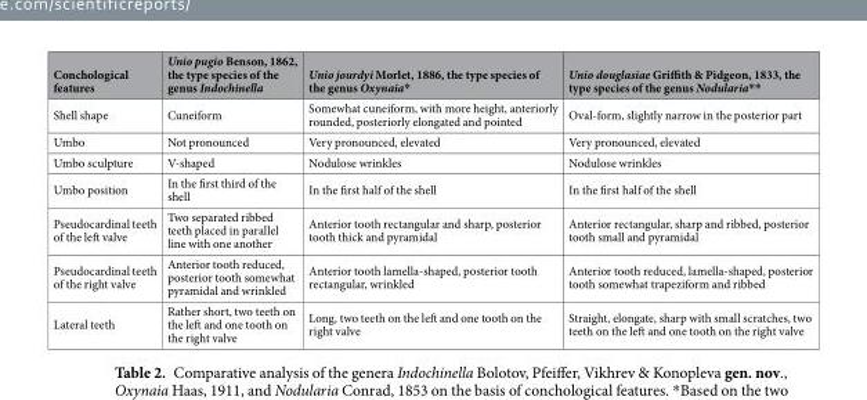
<table><thead><tr><td>Conchological features</td><td>Unio pugio Benson, 1862, the type species of the genus Indochinella</td><td>Unio jourdyi Morlet, 1886, the type species of the genus Oxynaia*</td><td>Unio douglasiae Griffith &amp; Pidgeon, 1833, the type species of the genus Nodularia**</td></tr></thead><tbody><tr><td>Shell shape</td><td>Cuneiform</td><td>Somewhat cuneiform, with more height, anteriorly rounded, posteriorly elongated and pointed</td><td>Oval-form, slightly narrow in the posterior part</td></tr><tr><td>Umbo</td><td>Not pronounced</td><td>Very pronounced, elevated</td><td>Very pronounced, elevated</td></tr><tr><td>Umbo sculpture</td><td>V-shaped</td><td>Nodulose wrinkles</td><td>Nodulose wrinkles</td></tr><tr><td>Umbo position</td><td>In the first third of the shell</td><td>In the first half of the shell</td><td>In the first half of the shell</td></tr><tr><td>Pseudocardinal teeth of the left valve</td><td>Two separated ribbed teeth placed in parallel line with one another</td><td>Anterior tooth rectangular and sharp, posterior tooth thick and pyramidal</td><td>Anterior rectangular, sharp and ribbed, posterior tooth small and pyramidal</td></tr><tr><td>Pseudocardinal teeth of the right valve</td><td>Anterior tooth reduced, posterior tooth somewhat pyramidal and wrinkled</td><td>Anterior tooth lamella-shaped, posterior tooth rectangular, wrinkled</td><td>Anterior tooth reduced, lamella-shaped, posterior tooth somewhat trapeziform and ribbed</td></tr><tr><td>Lateral teeth</td><td>Rather short, two teeth on the left and one tooth on the right valve</td><td>Long, two teeth on the left and one tooth on the right valve</td><td>Straight, elongate, sharp with small scratches, two teeth on the left and one tooth on the right valve</td></tr></tbody></table>